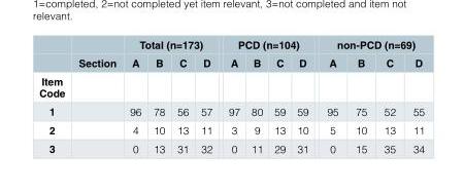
<table><thead><tr><td rowspan="2"></td><td rowspan="2">Section</td><td colspan="4">Total (n=173)</td><td colspan="4">PCD (n=104)</td><td colspan="4">non-PCD (n=69)</td></tr><tr><td>A</td><td>B</td><td>C</td><td>D</td><td>A</td><td>B</td><td>C</td><td>D</td><td>A</td><td>B</td><td>C</td><td>D</td></tr></thead><tbody><tr><td colspan="14">Item Code</td></tr><tr><td>1</td><td></td><td>96</td><td>78</td><td>56</td><td>57</td><td>97</td><td>80</td><td>59</td><td>59</td><td>95</td><td>75</td><td>52</td><td>55</td></tr><tr><td>2</td><td></td><td>4</td><td>10</td><td>13</td><td>11</td><td>3</td><td>9</td><td>13</td><td>10</td><td>5</td><td>10</td><td>13</td><td>11</td></tr><tr><td>3</td><td></td><td>0</td><td>13</td><td>31</td><td>32</td><td>0</td><td>11</td><td>29</td><td>31</td><td>0</td><td>15</td><td>35</td><td>34</td></tr></tbody></table>